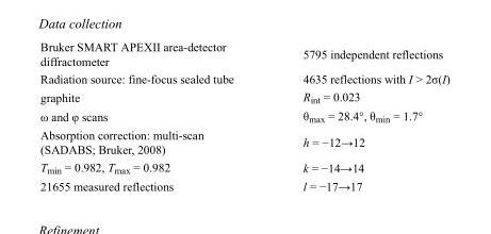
<table><tbody><tr><td>Bruker SMART APEXII area-detector diffractometer</td><td>5795 independent reflections</td></tr><tr><td>Radiation source: fine-focus sealed tube</td><td>4635 reflections with I &gt; 2σ(I)</td></tr><tr><td>graphite</td><td>R<sub>int</sub> = 0.023</td></tr><tr><td>ω and φ scans</td><td>θ<sub>max</sub> = 28.4°, θ<sub>min</sub> = 1.7°</td></tr><tr><td>Absorption correction: multi-scan (SADABS; Bruker, 2008)</td><td>h = −12→12</td></tr><tr><td>T<sub>min</sub> = 0.982, T<sub>max</sub> = 0.982</td><td>k = −14→14</td></tr><tr><td>21655 measured reflections</td><td>l = −17→17</td></tr></tbody></table>